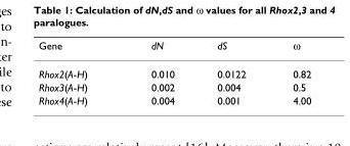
<table><thead><tr><td>Gene</td><td>dN</td><td>dS</td><td>ω</td></tr></thead><tbody><tr><td>Rhox2(A-H)</td><td>0.010</td><td>0.0122</td><td>0.82</td></tr><tr><td>Rhox3(A-H)</td><td>0.002</td><td>0.004</td><td>0.5</td></tr><tr><td>Rhox4(A-H)</td><td>0.004</td><td>0.001</td><td>4.00</td></tr></tbody></table>